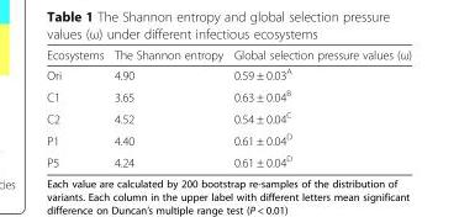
<table><thead><tr><td>Ecosystems</td><td>The Shannon entropy</td><td>Global selection pressure values (ω)</td></tr></thead><tbody><tr><td>Ori</td><td>4.90</td><td>0.59 ± 0.03<sup>A</sup></td></tr><tr><td>C1</td><td>3.65</td><td>0.63 ± 0.04<sup>B</sup></td></tr><tr><td>C2</td><td>4.52</td><td>0.54 ± 0.04<sup>C</sup></td></tr><tr><td>P1</td><td>4.40</td><td>0.61 ± 0.04<sup>D</sup></td></tr><tr><td>P5</td><td>4.24</td><td>0.61 ± 0.04<sup>D</sup></td></tr></tbody></table>